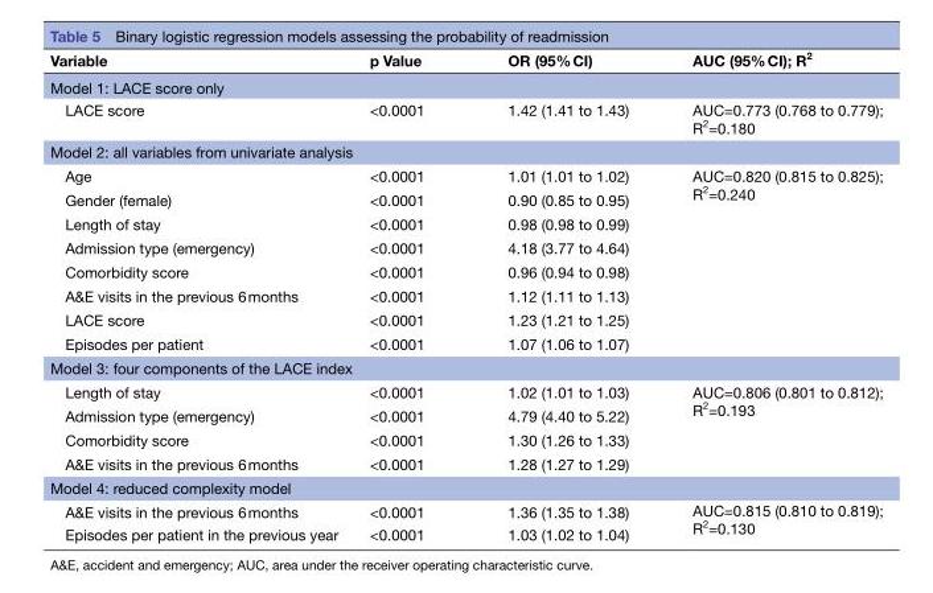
<table><thead><tr><td>Variable</td><td>p Value</td><td>OR (95% CI)</td><td>AUC (95% CI); R<sup>2</sup></td></tr></thead><tbody><tr><td colspan="4">Model 1: LACE score only</td></tr><tr><td>LACE score</td><td>&lt;0.0001</td><td>1.42 (1.41 to 1.43)</td><td>AUC=0.773 (0.768 to 0.779); R<sup>2</sup>=0.180</td></tr><tr><td colspan="4">Model 2: all variables from univariate analysis</td></tr><tr><td>Age</td><td>&lt;0.0001</td><td>1.01 (1.01 to 1.02)</td><td rowspan="8">AUC=0.820 (0.815 to 0.825); R<sup>2</sup>=0.240</td></tr><tr><td>Gender (female)</td><td>&lt;0.0001</td><td>0.90 (0.85 to 0.95)</td></tr><tr><td>Length of stay</td><td>&lt;0.0001</td><td>0.98 (0.98 to 0.99)</td></tr><tr><td>Admission type (emergency)</td><td>&lt;0.0001</td><td>4.18 (3.77 to 4.64)</td></tr><tr><td>Comorbidity score</td><td>&lt;0.0001</td><td>0.96 (0.94 to 0.98)</td></tr><tr><td>A&amp;E visits in the previous 6 months</td><td>&lt;0.0001</td><td>1.12 (1.11 to 1.13)</td></tr><tr><td>LACE score</td><td>&lt;0.0001</td><td>1.23 (1.21 to 1.25)</td></tr><tr><td>Episodes per patient</td><td>&lt;0.0001</td><td>1.07 (1.06 to 1.07)</td></tr><tr><td colspan="4">Model 3: four components of the LACE index</td></tr><tr><td>Length of stay</td><td>&lt;0.0001</td><td>1.02 (1.01 to 1.03)</td><td rowspan="4">AUC=0.806 (0.801 to 0.812); R<sup>2</sup>=0.193</td></tr><tr><td>Admission type (emergency)</td><td>&lt;0.0001</td><td>4.79 (4.40 to 5.22)</td></tr><tr><td>Comorbidity score</td><td>&lt;0.0001</td><td>1.30 (1.26 to 1.33)</td></tr><tr><td>A&amp;E visits in the previous 6 months</td><td>&lt;0.0001</td><td>1.28 (1.27 to 1.29)</td></tr><tr><td colspan="4">Model 4: reduced complexity model</td></tr><tr><td>A&amp;E visits in the previous 6 months</td><td>&lt;0.0001</td><td>1.36 (1.35 to 1.38)</td><td rowspan="2">AUC=0.815 (0.810 to 0.819); R<sup>2</sup>=0.130</td></tr><tr><td>Episodes per patient in the previous year</td><td>&lt;0.0001</td><td>1.03 (1.02 to 1.04)</td></tr></tbody></table>